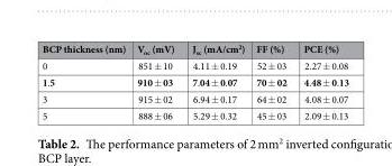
<table><thead><tr><td>BCP thickness (nm)</td><td>V<sub>oc</sub> (mV)</td><td>J<sub>sc</sub> (mA/cm<sup>2</sup>)</td><td>FF (%)</td><td>PCE (%)</td></tr></thead><tbody><tr><td>0</td><td>851 ± 10</td><td>4.11 ± 0.19</td><td>52 ± 03</td><td>2.27 ± 0.08</td></tr><tr><td>1.5</td><td>910 ± 03</td><td>7.04 ± 0.07</td><td>70 ± 02</td><td>4.48 ± 0.13</td></tr><tr><td>3</td><td>915 ± 02</td><td>6.94 ± 0.17</td><td>64 ± 02</td><td>4.08 ± 0.07</td></tr><tr><td>5</td><td>888 ± 06</td><td>5.29 ± 0.32</td><td>45 ± 03</td><td>2.09 ± 0.13</td></tr></tbody></table>